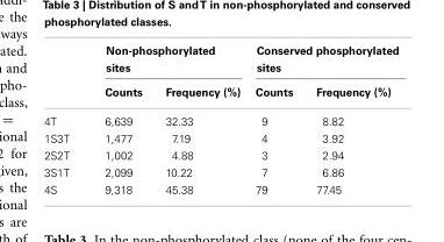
<table><thead><tr><td rowspan="2"></td><td colspan="2">Non-phosphorylated sites</td><td colspan="2">Conserved phosphorylated sites</td></tr><tr><td>Counts</td><td>Frequency (%)</td><td>Counts</td><td>Frequency (%)</td></tr></thead><tbody><tr><td>4T</td><td>6,639</td><td>32.33</td><td>9</td><td>8.82</td></tr><tr><td>1S3T</td><td>1,477</td><td>7.19</td><td>4</td><td>3.92</td></tr><tr><td>2S2T</td><td>1,002</td><td>4.88</td><td>3</td><td>2.94</td></tr><tr><td>3S1T</td><td>2,099</td><td>10.22</td><td>7</td><td>6.86</td></tr><tr><td>4S</td><td>9,318</td><td>45.38</td><td>79</td><td>77.45</td></tr></tbody></table>